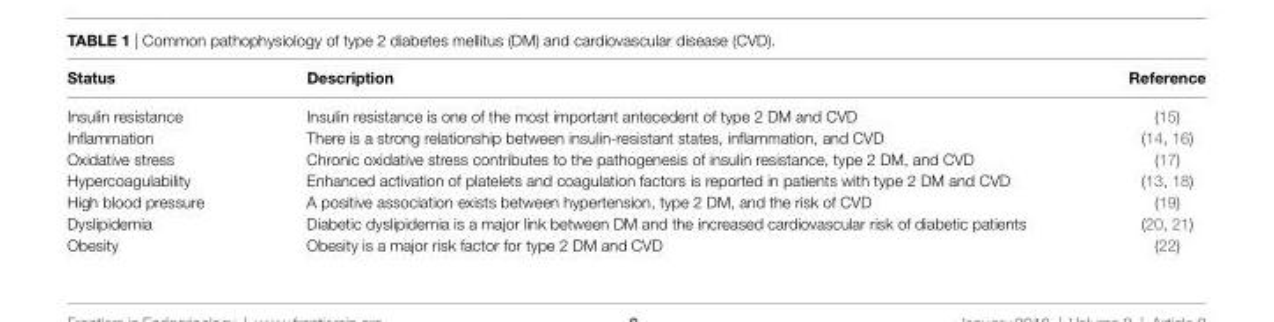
<table><thead><tr><td>Status</td><td>Description</td><td>Reference</td></tr></thead><tbody><tr><td>Insulin resistance</td><td>Insulin resistance is one of the most important antecedent of type 2 DM and CVD</td><td>(15)</td></tr><tr><td>Inflammation</td><td>There is a strong relationship between insulin-resistant states, inflammation, and CVD</td><td>(14, 16)</td></tr><tr><td>Oxidative stress</td><td>Chronic oxidative stress contributes to the pathogenesis of insulin resistance, type 2 DM, and CVD</td><td>(17)</td></tr><tr><td>Hypercoagulability</td><td>Enhanced activation of platelets and coagulation factors is reported in patients with type 2 DM and CVD</td><td>(13, 18)</td></tr><tr><td>High blood pressure</td><td>A positive association exists between hypertension, type 2 DM, and the risk of CVD</td><td>(19)</td></tr><tr><td>Dyslipidemia</td><td>Diabetic dyslipidemia is a major link between DM and the increased cardiovascular risk of diabetic patients</td><td>(20, 21)</td></tr><tr><td>Obesity</td><td>Obesity is a major risk factor for type 2 DM and CVD</td><td>(22)</td></tr></tbody></table>